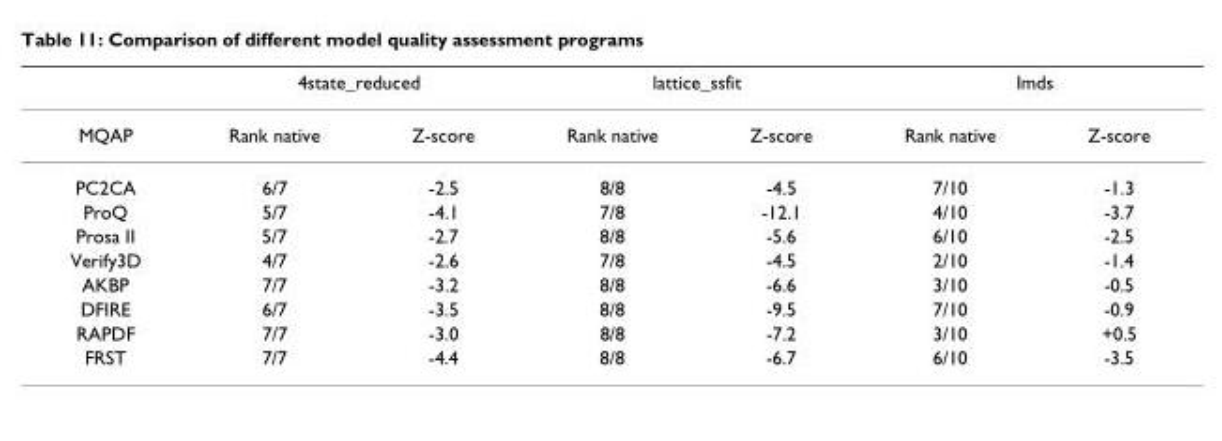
<table><thead><tr><td rowspan="2">MQAP</td><td colspan="2">4state_reduced</td><td colspan="2">lattice_ssfit</td><td colspan="2">Imds</td></tr><tr><td>Rank native</td><td>Z-score</td><td>Rank native</td><td>Z-score</td><td>Rank native</td><td>Z-score</td></tr></thead><tbody><tr><td>PC2CA</td><td>6/7</td><td>-2.5</td><td>8/8</td><td>-4.5</td><td>7/10</td><td>-1.3</td></tr><tr><td>ProQ</td><td>5/7</td><td>-4.1</td><td>7/8</td><td>-12.1</td><td>4/10</td><td>-3.7</td></tr><tr><td>Prosa II</td><td>5/7</td><td>-2.7</td><td>8/8</td><td>-5.6</td><td>6/10</td><td>-2.5</td></tr><tr><td>Verify3D</td><td>4/7</td><td>-2.6</td><td>7/8</td><td>-4.5</td><td>2/10</td><td>-1.4</td></tr><tr><td>AKBP</td><td>7/7</td><td>-3.2</td><td>8/8</td><td>-6.6</td><td>3/10</td><td>-0.5</td></tr><tr><td>DFIRE</td><td>6/7</td><td>-3.5</td><td>8/8</td><td>-9.5</td><td>7/10</td><td>-0.9</td></tr><tr><td>RAPDF</td><td>7/7</td><td>-3.0</td><td>8/8</td><td>-7.2</td><td>3/10</td><td>+0.5</td></tr><tr><td>FRST</td><td>7/7</td><td>-4.4</td><td>8/8</td><td>-6.7</td><td>6/10</td><td>-3.5</td></tr></tbody></table>